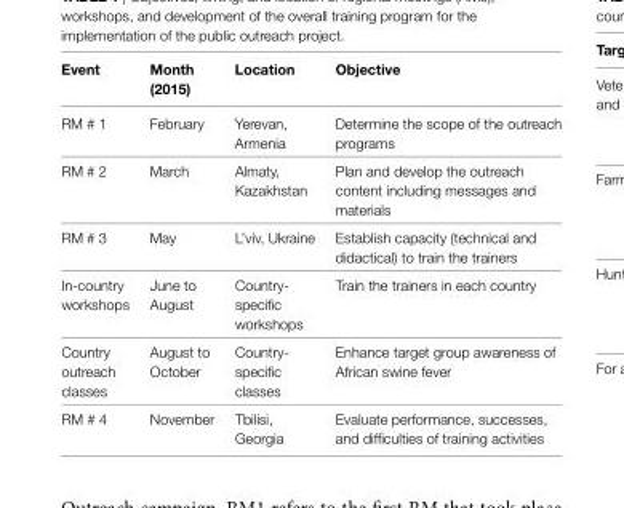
<table><thead><tr><td>event</td><td>month (2015)</td><td>location</td><td>objective</td></tr></thead><tbody><tr><td>RM # 1</td><td>February</td><td>Yerevan, Armenia</td><td>Determine the scope of the outreach programs</td></tr><tr><td>RM # 2</td><td>March</td><td>Almaty, Kazakhstan</td><td>Plan and develop the outreach content including messages and materials</td></tr><tr><td>RM # 3</td><td>May</td><td>L’viv, Ukraine</td><td>Establish capacity (technical and didactical) to train the trainers</td></tr><tr><td>In-country workshops</td><td>June to August</td><td>Country- specific workshops</td><td>Train the trainers in each country</td></tr><tr><td>Country outreach classes</td><td>August to October</td><td>Country- specific classes</td><td>Enhance target group awareness of African swine fever</td></tr><tr><td>RM # 4</td><td>November</td><td>Tbilisi, Georgia</td><td>Evaluate performance, successes, and difficulties of training activities</td></tr></tbody></table>